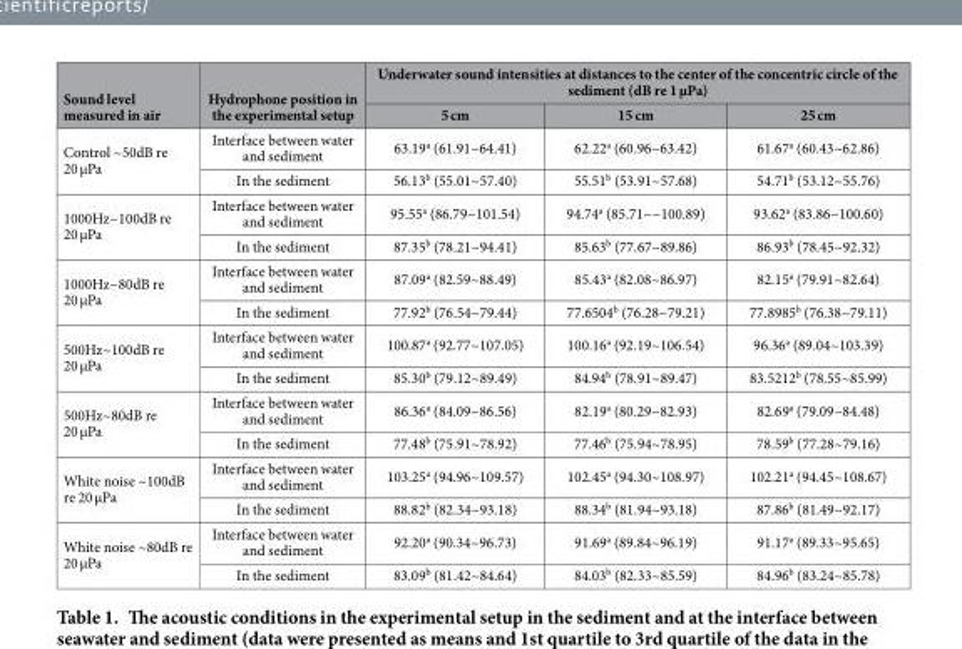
<table><thead><tr><td rowspan="2">Sound level measured in air</td><td rowspan="2">Hydrophone position in the experimental setup</td><td colspan="3">Underwater sound intensities at distances to the center of the concentric circle of the sediment (dB re 1 μPa)</td></tr><tr><td>5 cm</td><td>15 cm</td><td>25 cm</td></tr></thead><tbody><tr><td rowspan="2">Control ~50dB re 20 μPa</td><td>Interface between water and sediment</td><td>63.19<sup>a</sup> (61.91~64.41)</td><td>62.22<sup>a</sup> (60.96~63.42)</td><td>61.67<sup>a</sup> (60.43~62.86)</td></tr><tr><td>In the sediment</td><td>56.13<sup>b</sup> (55.01~57.40)</td><td>55.51<sup>b</sup> (53.91~57.68)</td><td>54.71<sup>b</sup> (53.12~55.76)</td></tr><tr><td rowspan="2">1000Hz~100dB re 20 μPa</td><td>Interface between water and sediment</td><td>95.55<sup>a</sup> (86.79~101.54)</td><td>94.74<sup>a</sup> (85.71~~100.89)</td><td>93.62<sup>a</sup> (83.86~100.60)</td></tr><tr><td>In the sediment</td><td>87.35<sup>b</sup> (78.21~94.41)</td><td>85.63<sup>b</sup> (77.67~89.86)</td><td>86.93<sup>b</sup> (78.45~92.32)</td></tr><tr><td rowspan="2">1000Hz~80dB re 20 μPa</td><td>Interface between water and sediment</td><td>87.09<sup>a</sup> (82.59~88.49)</td><td>85.43<sup>a</sup> (82.08~86.97)</td><td>82.15<sup>a</sup> (79.91~82.64)</td></tr><tr><td>In the sediment</td><td>77.92<sup>b</sup> (76.54~79.44)</td><td>77.6504<sup>b</sup> (76.28~79.21)</td><td>77.8985<sup>b</sup> (76.38~79.11)</td></tr><tr><td rowspan="2">500Hz~100dB re 20 μPa</td><td>Interface between water and sediment</td><td>100.87<sup>a</sup> (92.77~107.05)</td><td>100.16<sup>a</sup> (92.19~106.54)</td><td>96.36<sup>a</sup> (89.04~103.39)</td></tr><tr><td>In the sediment</td><td>85.30<sup>b</sup> (79.12~89.49)</td><td>84.94<sup>b</sup> (78.91~89.47)</td><td>83.5212<sup>b</sup> (78.55~85.99)</td></tr><tr><td rowspan="2">500Hz~80dB re 20 μPa</td><td>Interface between water and sediment</td><td>86.36<sup>a</sup> (84.09~86.56)</td><td>82.19<sup>a</sup> (80.29~82.93)</td><td>82.69<sup>a</sup> (79.09~84.48)</td></tr><tr><td>In the sediment</td><td>77.48<sup>b</sup> (75.91~78.92)</td><td>77.46<sup>b</sup> (75.94~78.95)</td><td>78.59<sup>b</sup> (77.28~79.16)</td></tr><tr><td rowspan="2">White noise ~100dB re 20 μPa</td><td>Interface between water and sediment</td><td>103.25<sup>a</sup> (94.96~109.57)</td><td>102.45<sup>a</sup> (94.30~108.97)</td><td>102.21<sup>a</sup> (94.45~108.67)</td></tr><tr><td>In the sediment</td><td>88.82<sup>b</sup> (82.34~93.18)</td><td>88.34<sup>b</sup> (81.94~93.18)</td><td>87.86<sup>b</sup> (81.49~92.17)</td></tr><tr><td rowspan="2">White noise ~80dB re 20 μPa</td><td>Interface between water and sediment</td><td>92.20<sup>a</sup> (90.34~96.73)</td><td>91.69<sup>a</sup> (89.84~96.19)</td><td>91.17<sup>a</sup> (89.33~95.65)</td></tr><tr><td>In the sediment</td><td>83.09<sup>b</sup> (81.42~84.64)</td><td>84.03<sup>b</sup> (82.33~85.59)</td><td>84.96<sup>b</sup> (83.24~85.78)</td></tr></tbody></table>